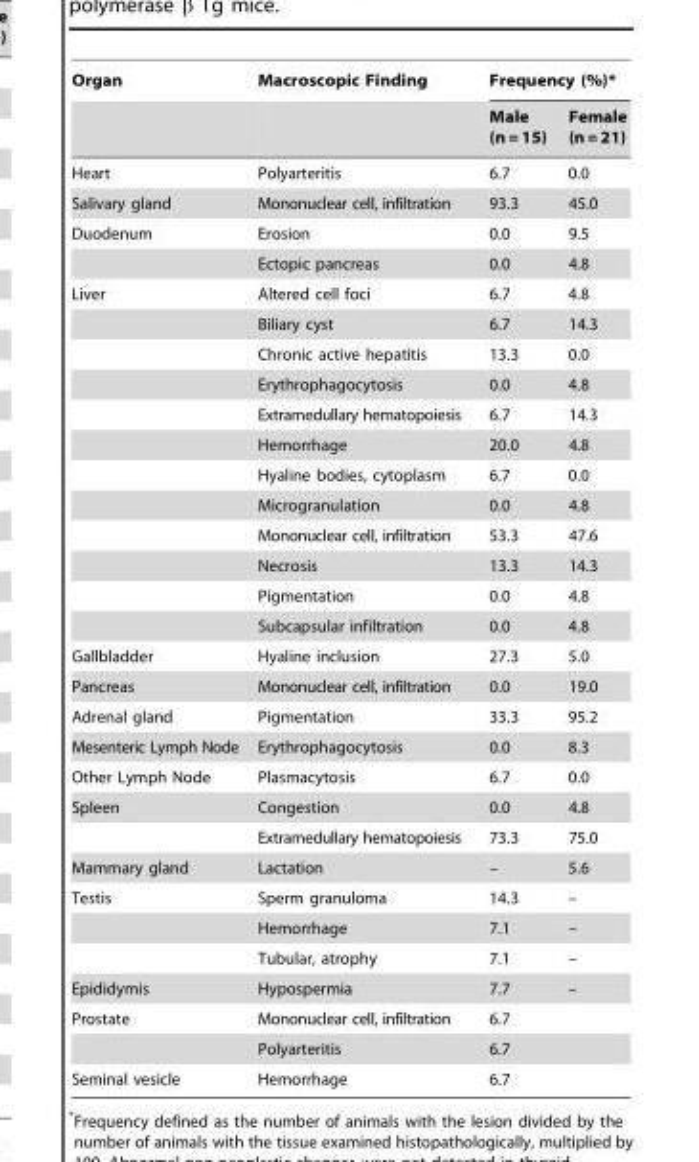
<table><thead><tr><td rowspan="2">Organ</td><td rowspan="2">Macroscopic Finding</td><td colspan="2">Frequency (%)*</td></tr><tr><td>Male (n = 15)</td><td>Female (n = 21)</td></tr></thead><tbody><tr><td>Heart</td><td>Polyarteritis</td><td>6.7</td><td>0.0</td></tr><tr><td>Salivary gland</td><td>Mononuclear cell, infiltration</td><td>93.3</td><td>45.0</td></tr><tr><td rowspan="2">Duodenum</td><td>Erosion</td><td>0.0</td><td>9.5</td></tr><tr><td>Ectopic pancreas</td><td>0.0</td><td>4.8</td></tr><tr><td rowspan="12">Liver</td><td>Altered cell foci</td><td>6.7</td><td>4.8</td></tr><tr><td>Biliary cyst</td><td>6.7</td><td>14.3</td></tr><tr><td>Chronic active hepatitis</td><td>13.3</td><td>0.0</td></tr><tr><td>Erythrophagocytosis</td><td>0.0</td><td>4.8</td></tr><tr><td>Extramedullary hematopoiesis</td><td>6.7</td><td>14.3</td></tr><tr><td>Hemorrhage</td><td>20.0</td><td>4.8</td></tr><tr><td>Hyaline bodies, cytoplasm</td><td>6.7</td><td>0.0</td></tr><tr><td>Microgranulation</td><td>0.0</td><td>4.8</td></tr><tr><td>Mononuclear cell, infiltration</td><td>53.3</td><td>47.6</td></tr><tr><td>Necrosis</td><td>13.3</td><td>14.3</td></tr><tr><td>Pigmentation</td><td>0.0</td><td>4.8</td></tr><tr><td>Subcapsular infiltration</td><td>0.0</td><td>4.8</td></tr><tr><td>Gallbladder</td><td>Hyaline inclusion</td><td>27.3</td><td>5.0</td></tr><tr><td>Pancreas</td><td>Mononuclear cell, infiltration</td><td>0.0</td><td>19.0</td></tr><tr><td>Adrenal gland</td><td>Pigmentation</td><td>33.3</td><td>95.2</td></tr><tr><td>Mesenteric Lymph Node</td><td>Erythrophagocytosis</td><td>0.0</td><td>8.3</td></tr><tr><td>Other Lymph Node</td><td>Plasmacytosis</td><td>6.7</td><td>0.0</td></tr><tr><td rowspan="2">Spleen</td><td>Congestion</td><td>0.0</td><td>4.8</td></tr><tr><td>Extramedullary hematopoiesis</td><td>73.3</td><td>75.0</td></tr><tr><td>Mammary gland</td><td>Lactation</td><td>–</td><td>5.6</td></tr><tr><td rowspan="3">Testis</td><td>Sperm granuloma</td><td>14.3</td><td>–</td></tr><tr><td>Hemorrhage</td><td>7.1</td><td>–</td></tr><tr><td>Tubular, atrophy</td><td>7.1</td><td>–</td></tr><tr><td>Epididymis</td><td>Hypospermia</td><td>7.7</td><td>–</td></tr><tr><td rowspan="2">Prostate</td><td>Mononuclear cell, infiltration</td><td>6.7</td><td></td></tr><tr><td>Polyarteritis</td><td>6.7</td><td></td></tr><tr><td>Seminal vesicle</td><td>Hemorrhage</td><td>6.7</td><td></td></tr></tbody></table>